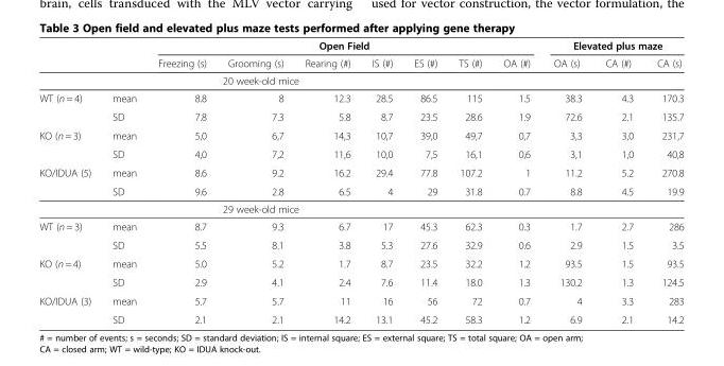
<table><thead><tr><td></td><td></td><td colspan="7">Open Field</td><td colspan="3">Elevated plus maze</td></tr><tr><td colspan="2"></td><td>Freezing (s)</td><td>Grooming (s)</td><td>Rearing (#)</td><td>IS (#)</td><td>ES (#)</td><td>TS (#)</td><td>OA (#)</td><td>OA (s)</td><td>CA (#)</td><td>CA (s)</td></tr></thead><tbody><tr><td colspan="12">20 week-old mice</td></tr><tr><td rowspan="2">WT (n = 4)</td><td>mean</td><td>8.8</td><td>8</td><td>12.3</td><td>28.5</td><td>86.5</td><td>115</td><td>1.5</td><td>38.3</td><td>4.3</td><td>170.3</td></tr><tr><td>SD</td><td>7.8</td><td>7.3</td><td>5.8</td><td>8.7</td><td>23.5</td><td>28.6</td><td>1.9</td><td>72.6</td><td>2.1</td><td>135.7</td></tr><tr><td rowspan="2">KO (n = 3)</td><td>mean</td><td>5,0</td><td>6,7</td><td>14,3</td><td>10,7</td><td>39,0</td><td>49,7</td><td>0,7</td><td>3,3</td><td>3,0</td><td>231,7</td></tr><tr><td>SD</td><td>4,0</td><td>7,2</td><td>11,6</td><td>10,0</td><td>7,5</td><td>16,1</td><td>0,6</td><td>3,1</td><td>1,0</td><td>40,8</td></tr><tr><td rowspan="2">KO/IDUA (5)</td><td>mean</td><td>8.6</td><td>9.2</td><td>16.2</td><td>29.4</td><td>77.8</td><td>107.2</td><td>1</td><td>11.2</td><td>5.2</td><td>270.8</td></tr><tr><td>SD</td><td>9.6</td><td>2.8</td><td>6.5</td><td>4</td><td>29</td><td>31.8</td><td>0.7</td><td>8.8</td><td>4.5</td><td>19.9</td></tr><tr><td colspan="12">29 week-old mice</td></tr><tr><td rowspan="2">WT (n = 3)</td><td>mean</td><td>8.7</td><td>9.3</td><td>6.7</td><td>17</td><td>45.3</td><td>62.3</td><td>0.3</td><td>1.7</td><td>2.7</td><td>286</td></tr><tr><td>SD</td><td>5.5</td><td>8.1</td><td>3.8</td><td>5.3</td><td>27.6</td><td>32.9</td><td>0.6</td><td>2.9</td><td>1.5</td><td>3.5</td></tr><tr><td rowspan="2">KO (n = 4)</td><td>mean</td><td>5.0</td><td>5.2</td><td>1.7</td><td>8.7</td><td>23.5</td><td>32.2</td><td>1.2</td><td>93.5</td><td>1.5</td><td>93.5</td></tr><tr><td>SD</td><td>2.9</td><td>4.1</td><td>2.4</td><td>7.6</td><td>11.4</td><td>18.0</td><td>1.3</td><td>130.2</td><td>1.3</td><td>124.5</td></tr><tr><td rowspan="2">KO/IDUA (3)</td><td>mean</td><td>5.7</td><td>5.7</td><td>11</td><td>16</td><td>56</td><td>72</td><td>0.7</td><td>4</td><td>3.3</td><td>283</td></tr><tr><td>SD</td><td>2.1</td><td>2.1</td><td>14.2</td><td>13.1</td><td>45.2</td><td>58.3</td><td>1.2</td><td>6.9</td><td>2.1</td><td>14.2</td></tr></tbody></table>